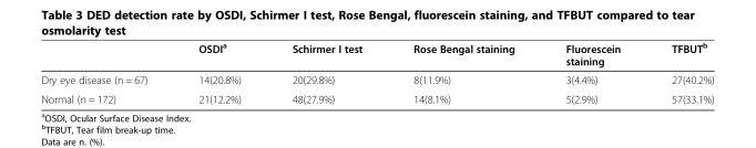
<table><thead><tr><td></td><td>OSDI<sup>a</sup></td><td>Schirmer I test</td><td>Rose Bengal staining</td><td>Fluorescein staining</td><td>TFBUT<sup>b</sup></td></tr></thead><tbody><tr><td>Dry eye disease (n = 67)</td><td>14(20.8%)</td><td>20(29.8%)</td><td>8(11.9%)</td><td>3(4.4%)</td><td>27(40.2%)</td></tr><tr><td>Normal (n = 172)</td><td>21(12.2%)</td><td>48(27.9%)</td><td>14(8.1%)</td><td>5(2.9%)</td><td>57(33.1%)</td></tr></tbody></table>